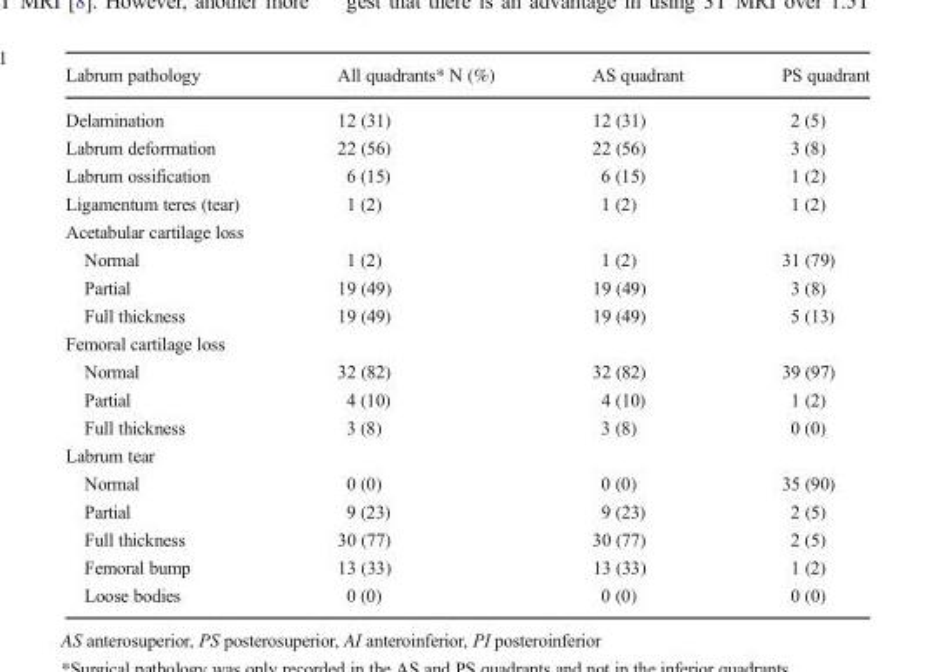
<table><thead><tr><td>Labrum pathology</td><td>All quadrants* N (%)</td><td>AS quadrant</td><td>PS quadrant</td></tr></thead><tbody><tr><td>Delamination</td><td>12 (31)</td><td>12 (31)</td><td>2 (5)</td></tr><tr><td>Labrum deformation</td><td>22 (56)</td><td>22 (56)</td><td>3 (8)</td></tr><tr><td>Labrum ossification</td><td>6 (15)</td><td>6 (15)</td><td>1 (2)</td></tr><tr><td>Ligamentum teres (tear)</td><td>1 (2)</td><td>1 (2)</td><td>1 (2)</td></tr><tr><td colspan="4">Acetabular cartilage loss</td></tr><tr><td>Normal</td><td>1 (2)</td><td>1 (2)</td><td>31 (79)</td></tr><tr><td>Partial</td><td>19 (49)</td><td>19 (49)</td><td>3 (8)</td></tr><tr><td>Full thickness</td><td>19 (49)</td><td>19 (49)</td><td>5 (13)</td></tr><tr><td colspan="4">Femoral cartilage loss</td></tr><tr><td>Normal</td><td>32 (82)</td><td>32 (82)</td><td>39 (97)</td></tr><tr><td>Partial</td><td>4 (10)</td><td>4 (10)</td><td>1 (2)</td></tr><tr><td>Full thickness</td><td>3 (8)</td><td>3 (8)</td><td>0 (0)</td></tr><tr><td colspan="4">Labrum tear</td></tr><tr><td>Normal</td><td>0 (0)</td><td>0 (0)</td><td>35 (90)</td></tr><tr><td>Partial</td><td>9 (23)</td><td>9 (23)</td><td>2 (5)</td></tr><tr><td>Full thickness</td><td>30 (77)</td><td>30 (77)</td><td>2 (5)</td></tr><tr><td>Femoral bump</td><td>13 (33)</td><td>13 (33)</td><td>1 (2)</td></tr><tr><td>Loose bodies</td><td>0 (0)</td><td>0 (0)</td><td>0 (0)</td></tr></tbody></table>